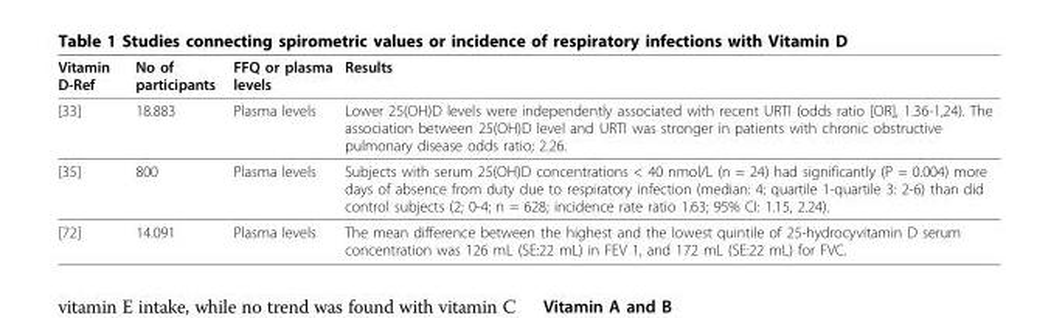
<table><thead><tr><td>Vitamin D-Ref</td><td>No of participants</td><td>FFQ or plasma levels</td><td>Results</td></tr></thead><tbody><tr><td>[33]</td><td>18.883</td><td>Plasma levels</td><td>Lower 25(OH)D levels were independently associated with recent URTI (odds ratio [OR], 1.36-1,24). The association between 25(OH)D level and URTI was stronger in patients with chronic obstructive pulmonary disease odds ratio; 2.26.</td></tr><tr><td>[35]</td><td>800</td><td>Plasma levels</td><td>Subjects with serum 25(OH)D concentrations &lt; 40 nmol/L (n = 24) had significantly (P = 0.004) more days of absence from duty due to respiratory infection (median: 4; quartile 1-quartile 3: 2-6) than did control subjects (2; 0-4; n = 628; incidence rate ratio 1.63; 95% CI: 1.15, 2.24).</td></tr><tr><td>[72]</td><td>14.091</td><td>Plasma levels</td><td>The mean difference between the highest and the lowest quintile of 25-hydrocyvitamin D serum concentration was 126 mL (SE:22 mL) in FEV 1, and 172 mL (SE:22 mL) for FVC.</td></tr></tbody></table>